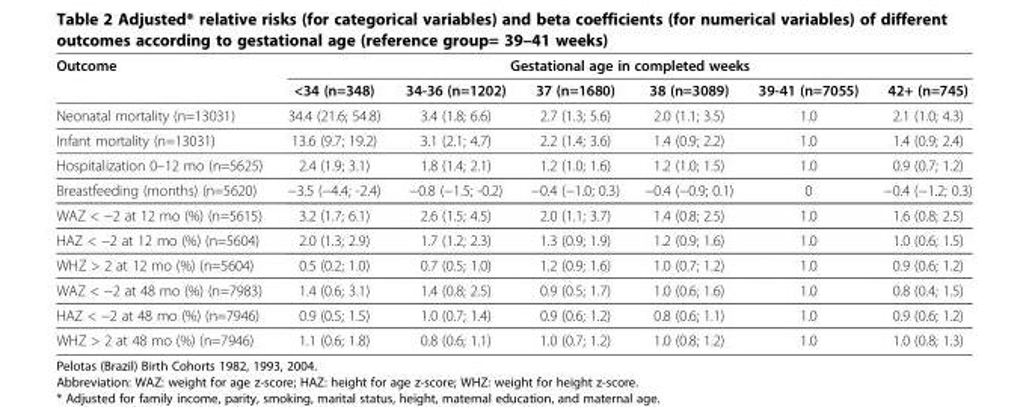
<table><thead><tr><td rowspan="2">Outcome</td><td colspan="6">Gestational age in completed weeks</td></tr><tr><td>&lt;34 (n=348)</td><td>34-36 (n=1202)</td><td>37 (n=1680)</td><td>38 (n=3089)</td><td>39-41 (n=7055)</td><td>42+ (n=745)</td></tr></thead><tbody><tr><td>Neonatal mortality (n=13031)</td><td>34.4 (21.6; 54.8)</td><td>3.4 (1.8; 6.6)</td><td>2.7 (1.3; 5.6)</td><td>2.0 (1.1; 3.5)</td><td>1.0</td><td>2.1 (1.0; 4.3)</td></tr><tr><td>Infant mortality (n=13031)</td><td>13.6 (9.7; 19.2)</td><td>3.1 (2.1; 4.7)</td><td>2.2 (1.4; 3.6)</td><td>1.4 (0.9; 2.2)</td><td>1.0</td><td>1.4 (0.9; 2.4)</td></tr><tr><td>Hospitalization 0–12 mo (n=5625)</td><td>2.4 (1.9; 3.1)</td><td>1.8 (1.4; 2.1)</td><td>1.2 (1.0; 1.6)</td><td>1.2 (1.0; 1.5)</td><td>1.0</td><td>0.9 (0.7; 1.2)</td></tr><tr><td>Breastfeeding (months) (n=5620)</td><td>−3.5 (−4.4; -2.4)</td><td>−0.8 (−1.5; -0.2)</td><td>−0.4 (−1.0; 0.3)</td><td>−0.4 (−0.9; 0.1)</td><td>0</td><td>−0.4 (−1.2; 0.3)</td></tr><tr><td>WAZ &lt; −2 at 12 mo (%) (n=5615)</td><td>3.2 (1.7; 6.1)</td><td>2.6 (1.5; 4.5)</td><td>2.0 (1.1; 3.7)</td><td>1.4 (0.8; 2.5)</td><td>1.0</td><td>1.6 (0.8; 2.5)</td></tr><tr><td>HAZ &lt; −2 at 12 mo (%) (n=5604)</td><td>2.0 (1.3; 2.9)</td><td>1.7 (1.2; 2.3)</td><td>1.3 (0.9; 1.9)</td><td>1.2 (0.9; 1.6)</td><td>1.0</td><td>1.0 (0.6; 1.5)</td></tr><tr><td>WHZ &gt; 2 at 12 mo (%) (n=5604)</td><td>0.5 (0.2; 1.0)</td><td>0.7 (0.5; 1.0)</td><td>1.2 (0.9; 1.6)</td><td>1.0 (0.7; 1.2)</td><td>1.0</td><td>0.9 (0.6; 1.2)</td></tr><tr><td>WAZ &lt; −2 at 48 mo (%) (n=7983)</td><td>1.4 (0.6; 3.1)</td><td>1.4 (0.8; 2.5)</td><td>0.9 (0.5; 1.7)</td><td>1.0 (0.6; 1.6)</td><td>1.0</td><td>0.8 (0.4; 1.5)</td></tr><tr><td>HAZ &lt; −2 at 48 mo (%) (n=7946)</td><td>0.9 (0.5; 1.5)</td><td>1.0 (0.7; 1.4)</td><td>0.9 (0.6; 1.2)</td><td>0.8 (0.6; 1.1)</td><td>1.0</td><td>0.9 (0.6; 1.2)</td></tr><tr><td>WHZ &gt; 2 at 48 mo (%) (n=7946)</td><td>1.1 (0.6; 1.8)</td><td>0.8 (0.6; 1.1)</td><td>1.0 (0.7; 1.2)</td><td>1.0 (0.8; 1.2)</td><td>1.0</td><td>1.0 (0.8; 1.3)</td></tr></tbody></table>